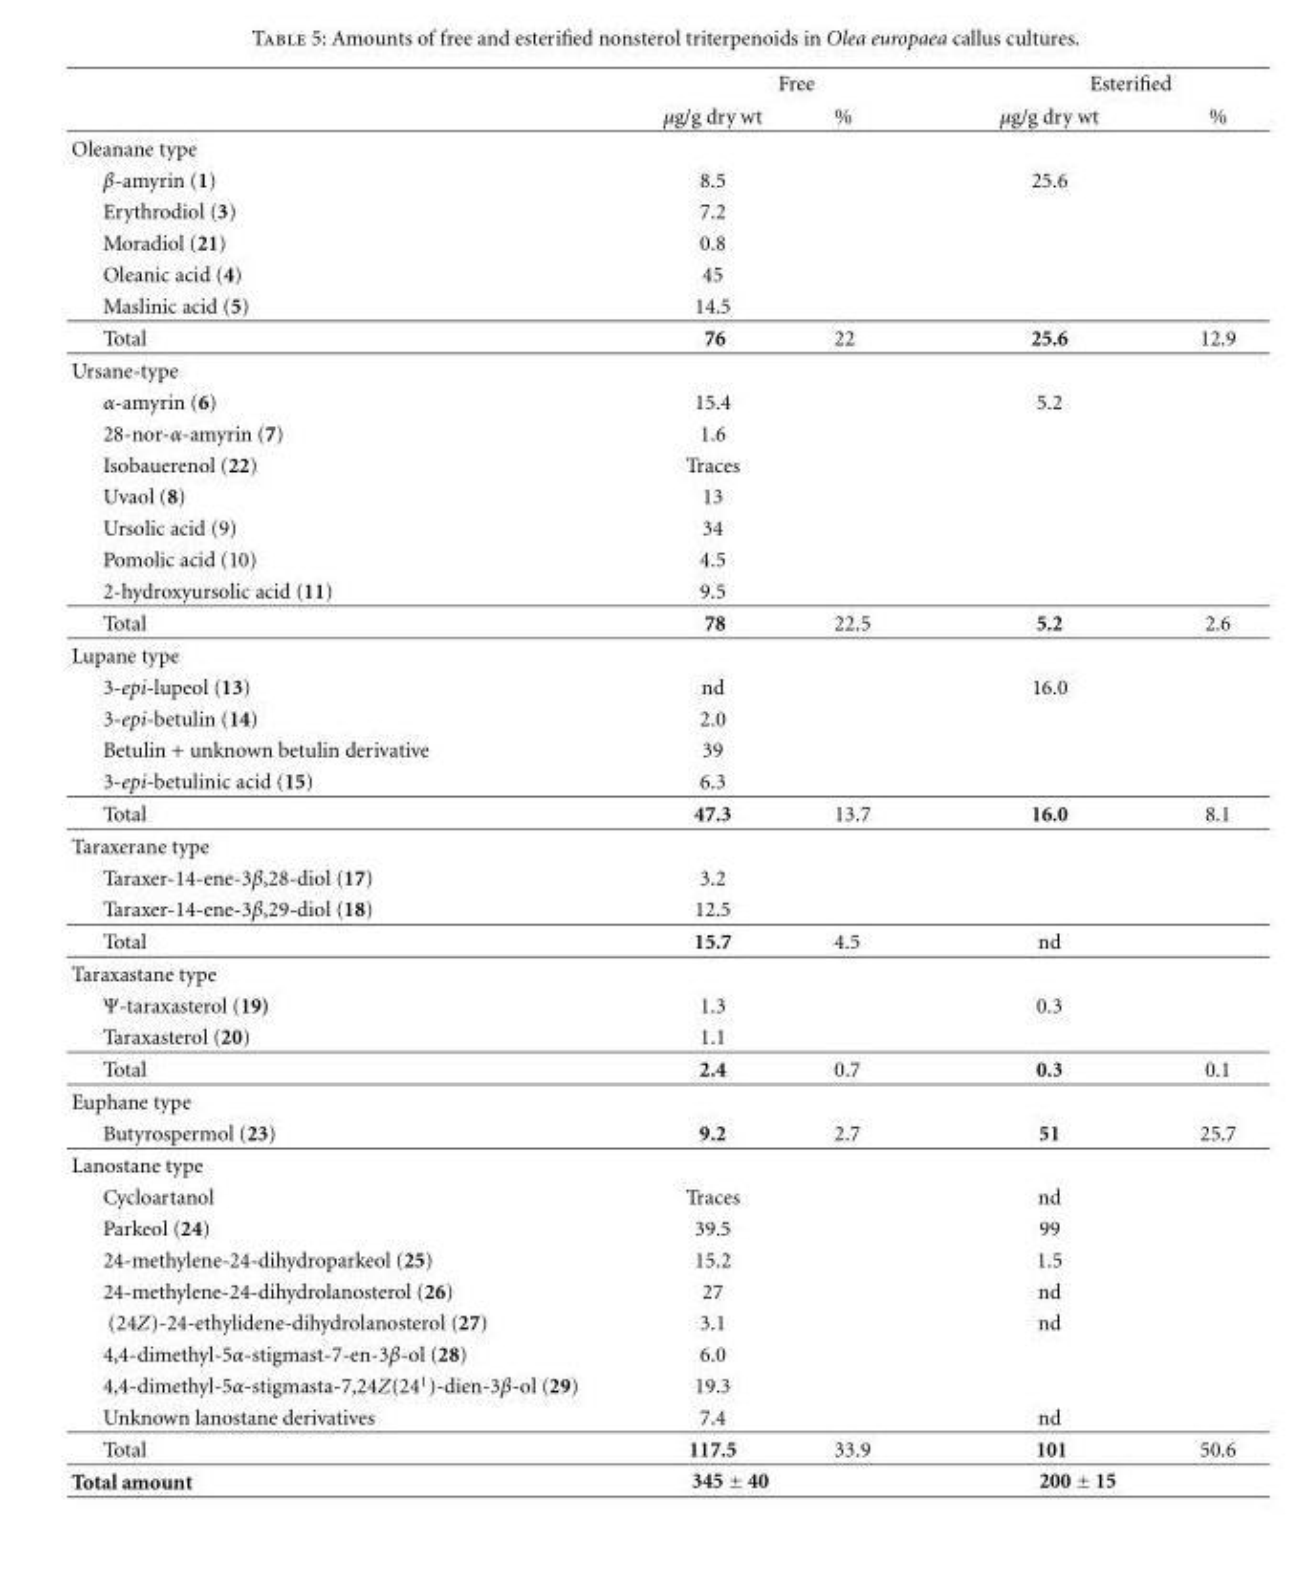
<table><thead><tr><td rowspan="2"></td><td colspan="2">Free</td><td colspan="2">Esterified</td></tr><tr><td>μg/g dry wt</td><td>%</td><td>μg/g dry wt</td><td>%</td></tr></thead><tbody><tr><td colspan="5">Oleanane type</td></tr><tr><td>β-amyrin (1)</td><td>8.5</td><td></td><td>25.6</td><td></td></tr><tr><td>Erythrodiol (3)</td><td>7.2</td><td></td><td></td><td></td></tr><tr><td>Moradiol (21)</td><td>0.8</td><td></td><td></td><td></td></tr><tr><td>Oleanic acid (4)</td><td>45</td><td></td><td></td><td></td></tr><tr><td>Maslinic acid (5)</td><td>14.5</td><td></td><td></td><td></td></tr><tr><td>Total</td><td>76</td><td>22</td><td>25.6</td><td>12.9</td></tr><tr><td colspan="5">Ursane-type</td></tr><tr><td>α-amyrin (6)</td><td>15.4</td><td></td><td>5.2</td><td></td></tr><tr><td>28-nor-α-amyrin (7)</td><td>1.6</td><td></td><td></td><td></td></tr><tr><td>Isobauerenol (22)</td><td>Traces</td><td></td><td></td><td></td></tr><tr><td>Uvaol (8)</td><td>13</td><td></td><td></td><td></td></tr><tr><td>Ursolic acid (9)</td><td>34</td><td></td><td></td><td></td></tr><tr><td>Pomolic acid (10)</td><td>4.5</td><td></td><td></td><td></td></tr><tr><td>2-hydroxyursolic acid (11)</td><td>9.5</td><td></td><td></td><td></td></tr><tr><td>Total</td><td>78</td><td>22.5</td><td>5.2</td><td>2.6</td></tr><tr><td colspan="5">Lupane type</td></tr><tr><td>3-epi-lupeol (13)</td><td>nd</td><td></td><td>16.0</td><td></td></tr><tr><td>3-epi-betulin (14)</td><td>2.0</td><td></td><td></td><td></td></tr><tr><td>Betulin + unknown betulin derivative</td><td>39</td><td></td><td></td><td></td></tr><tr><td>3-epi-betulinic acid (15)</td><td>6.3</td><td></td><td></td><td></td></tr><tr><td>Total</td><td>47.3</td><td>13.7</td><td>16.0</td><td>8.1</td></tr><tr><td colspan="5">Taraxerane type</td></tr><tr><td>Taraxer-14-ene-3β,28-diol (17)</td><td>3.2</td><td></td><td></td><td></td></tr><tr><td>Taraxer-14-ene-3β,29-diol (18)</td><td>12.5</td><td></td><td></td><td></td></tr><tr><td>Total</td><td>15.7</td><td>4.5</td><td>nd</td><td></td></tr><tr><td colspan="5">Taraxastane type</td></tr><tr><td>Ψ-taraxasterol (19)</td><td>1.3</td><td></td><td>0.3</td><td></td></tr><tr><td>Taraxasterol (20)</td><td>1.1</td><td></td><td></td><td></td></tr><tr><td>Total</td><td>2.4</td><td>0.7</td><td>0.3</td><td>0.1</td></tr><tr><td colspan="5">Euphane type</td></tr><tr><td>Butyrospermol (23)</td><td>9.2</td><td>2.7</td><td>51</td><td>25.7</td></tr><tr><td colspan="5">Lanostane type</td></tr><tr><td>Cycloartanol</td><td>Traces</td><td></td><td>nd</td><td></td></tr><tr><td>Parkeol (24)</td><td>39.5</td><td></td><td>99</td><td></td></tr><tr><td>24-methylene-24-dihydroparkeol (25)</td><td>15.2</td><td></td><td>1.5</td><td></td></tr><tr><td>24-methylene-24-dihydrolanosterol (26)</td><td>27</td><td></td><td>nd</td><td></td></tr><tr><td>(24Z)-24-ethylidene-dihydrolanosterol (27)</td><td>3.1</td><td></td><td>nd</td><td></td></tr><tr><td>4,4-dimethyl-5α-stigmast-7-en-3β-ol (28)</td><td>6.0</td><td></td><td></td><td></td></tr><tr><td>4,4-dimethyl-5α-stigmasta-7,24Z(241)-dien-3β-ol (29)</td><td>19.3</td><td></td><td></td><td></td></tr><tr><td>Unknown lanostane derivatives</td><td>7.4</td><td></td><td>nd</td><td></td></tr><tr><td>Total</td><td>117.5</td><td>33.9</td><td>101</td><td>50.6</td></tr><tr><td>Total amount</td><td colspan="2">345 ± 40</td><td colspan="2">200 ± 15</td></tr></tbody></table>